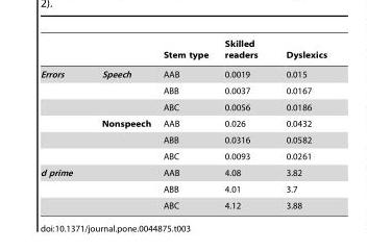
<table><thead><tr><td></td><td></td><td>Stem type</td><td>Skilled readers</td><td>Dyslexics</td></tr></thead><tbody><tr><td rowspan="6">Errors</td><td>Speech</td><td>AAB</td><td>0.0019</td><td>0.015</td></tr><tr><td></td><td>ABB</td><td>0.0037</td><td>0.0167</td></tr><tr><td></td><td>ABC</td><td>0.0056</td><td>0.0186</td></tr><tr><td>Nonspeech</td><td>AAB</td><td>0.026</td><td>0.0432</td></tr><tr><td></td><td>ABB</td><td>0.0316</td><td>0.0582</td></tr><tr><td></td><td>ABC</td><td>0.0093</td><td>0.0261</td></tr><tr><td rowspan="3">d prime</td><td></td><td>AAB</td><td>4.08</td><td>3.82</td></tr><tr><td></td><td>ABB</td><td>4.01</td><td>3.7</td></tr><tr><td></td><td>ABC</td><td>4.12</td><td>3.88</td></tr></tbody></table>